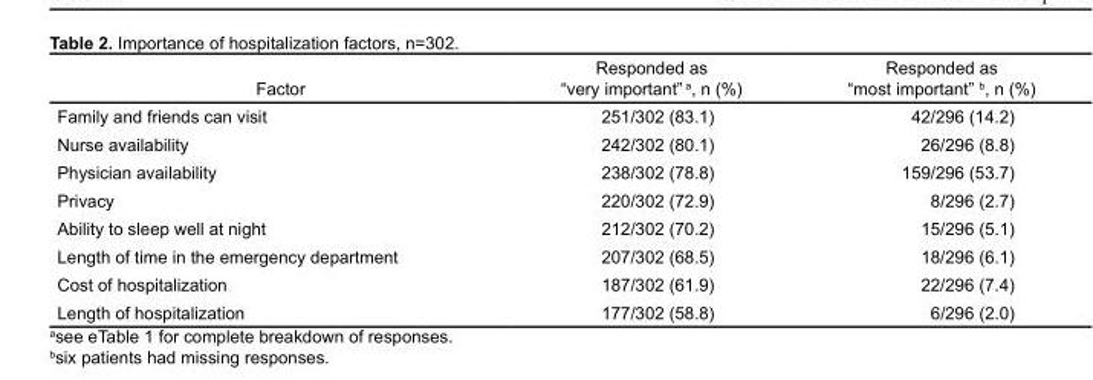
<table><thead><tr><td>Factor</td><td>Responded as “very important” a, n (%)</td><td>Responded as “most important” b, n (%)</td></tr></thead><tbody><tr><td>Family and friends can visit</td><td>251/302 (83.1)</td><td>42/296 (14.2)</td></tr><tr><td>Nurse availability</td><td>242/302 (80.1)</td><td>26/296 (8.8)</td></tr><tr><td>Physician availability</td><td>238/302 (78.8)</td><td>159/296 (53.7)</td></tr><tr><td>Privacy</td><td>220/302 (72.9)</td><td>8/296 (2.7)</td></tr><tr><td>Ability to sleep well at night</td><td>212/302 (70.2)</td><td>15/296 (5.1)</td></tr><tr><td>Length of time in the emergency department</td><td>207/302 (68.5)</td><td>18/296 (6.1)</td></tr><tr><td>Cost of hospitalization</td><td>187/302 (61.9)</td><td>22/296 (7.4)</td></tr><tr><td>Length of hospitalization</td><td>177/302 (58.8)</td><td>6/296 (2.0)</td></tr></tbody></table>